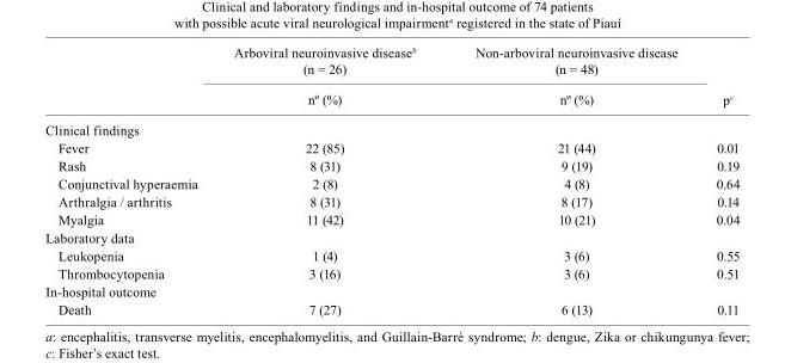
<table><thead><tr><td></td><td>Arboviral neuroinvasive disease<sup>b</sup> (n = 26)</td><td>Non-arboviral neuroinvasive disease (n = 48)</td><td></td></tr></thead><tbody><tr><td></td><td>nº (%)</td><td>nº (%)</td><td>p<sup>c</sup></td></tr><tr><td colspan="4">Clinical findings</td></tr><tr><td>Fever</td><td>22 (85)</td><td>21 (44)</td><td>0.01</td></tr><tr><td>Rash</td><td>8 (31)</td><td>9 (19)</td><td>0.19</td></tr><tr><td>Conjunctival hyperaemia</td><td>2 (8)</td><td>4 (8)</td><td>0.64</td></tr><tr><td>Arthralgia / arthritis</td><td>8 (31)</td><td>8 (17)</td><td>0.14</td></tr><tr><td>Myalgia</td><td>11 (42)</td><td>10 (21)</td><td>0.04</td></tr><tr><td colspan="4">Laboratory data</td></tr><tr><td>Leukopenia</td><td>1 (4)</td><td>3 (6)</td><td>0.55</td></tr><tr><td>Thrombocytopenia</td><td>3 (16)</td><td>3 (6)</td><td>0.51</td></tr><tr><td colspan="4">In-hospital outcome</td></tr><tr><td>Death</td><td>7 (27)</td><td>6 (13)</td><td>0.11</td></tr></tbody></table>